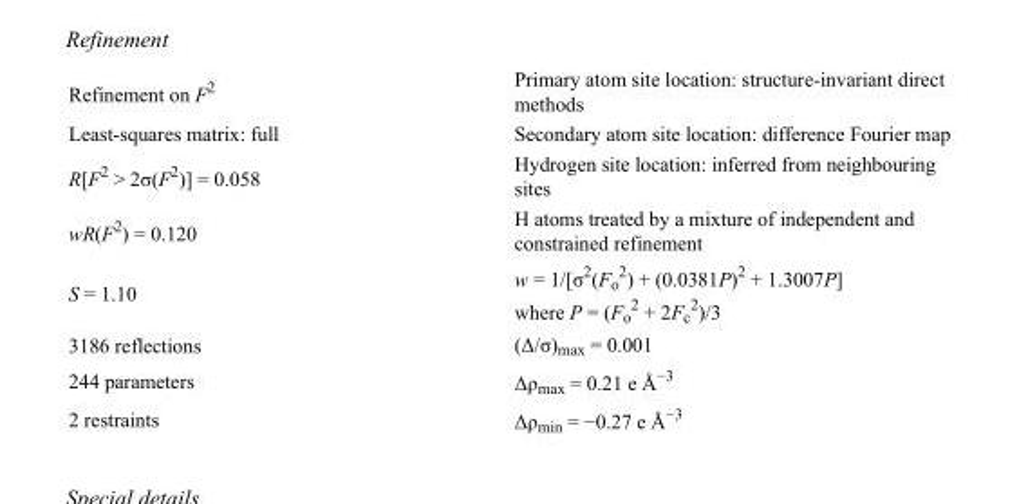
<table><tbody><tr><td>Refinement on F<sup>2</sup></td><td>Primary atom site location: structure-invariant direct methods</td></tr><tr><td>Least-squares matrix: full</td><td>Secondary atom site location: difference Fourier map</td></tr><tr><td>R[F<sup>2</sup> &gt; 2σ(F<sup>2</sup>)] = 0.058</td><td>Hydrogen site location: inferred from neighbouring sites</td></tr><tr><td>wR(F<sup>2</sup>) = 0.120</td><td>H atoms treated by a mixture of independent and constrained refinement</td></tr><tr><td>S = 1.10</td><td>w = 1/[σ<sup>2</sup>(F<sub>o</sub> <sup>2</sup>) + (0.0381P)<sup>2</sup> + 1.3007P] where P = (F<sub>o</sub> <sup>2</sup> + 2F<sub>c</sub> <sup>2</sup>)/3</td></tr><tr><td>3186 reflections</td><td>(Δ/σ)<sub>max</sub> = 0.001</td></tr><tr><td>244 parameters</td><td>Δρ<sub>max</sub> = 0.21 e Å<sup>−3</sup></td></tr><tr><td>2 restraints</td><td>Δρ<sub>min</sub> = −0.27 e Å<sup>−3</sup></td></tr></tbody></table>